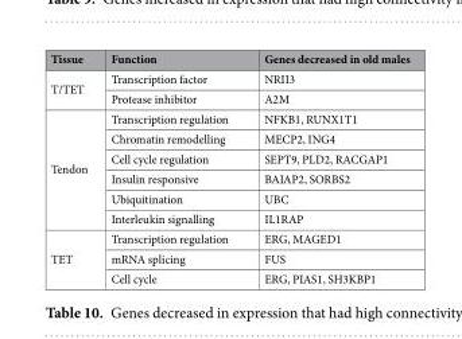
<table><thead><tr><td>Tissue</td><td>Function</td><td>Genes decreased in old males</td></tr></thead><tbody><tr><td rowspan="2">T/TET</td><td>Transcription factor</td><td>NRII3</td></tr><tr><td>Protease inhibitor</td><td>A2M</td></tr><tr><td rowspan="6">Tendon</td><td>Transcription regulation</td><td>NFKB1, RUNX1T1</td></tr><tr><td>Chromatin remodelling</td><td>MECP2, ING4</td></tr><tr><td>Cell cycle regulation</td><td>SEPT9, PLD2, RACGAP1</td></tr><tr><td>Insulin responsive</td><td>BAIAP2, SORBS2</td></tr><tr><td>Ubiquitination</td><td>UBC</td></tr><tr><td>Interleukin signalling</td><td>IL1RAP</td></tr><tr><td rowspan="3">TET</td><td>Transcription regulation</td><td>ERG, MAGED1</td></tr><tr><td>mRNA splicing</td><td>FUS</td></tr><tr><td>Cell cycle</td><td>ERG, PIAS1, SH3KBP1</td></tr></tbody></table>